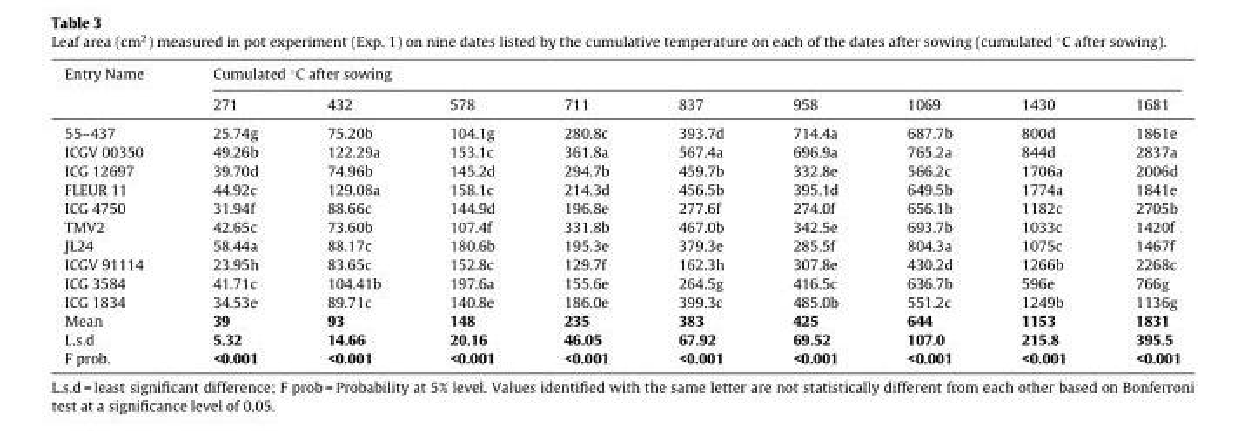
<table><thead><tr><td rowspan="2">Entry Name</td><td colspan="9">Cumulated ◦C after sowing</td></tr><tr><td>271</td><td>432</td><td>578</td><td>711</td><td>837</td><td>958</td><td>1069</td><td>1430</td><td>1681</td></tr></thead><tbody><tr><td>55–437</td><td>25.74g</td><td>75.20b</td><td>104.1g</td><td>280.8c</td><td>393.7d</td><td>714.4a</td><td>687.7b</td><td>800d</td><td>1861e</td></tr><tr><td>ICGV 00350</td><td>49.26b</td><td>122.29a</td><td>153.1c</td><td>361.8a</td><td>567.4a</td><td>696.9a</td><td>765.2a</td><td>844d</td><td>2837a</td></tr><tr><td>ICG 12697</td><td>39.70d</td><td>74.96b</td><td>145.2d</td><td>294.7b</td><td>459.7b</td><td>332.8e</td><td>566.2c</td><td>1706a</td><td>2006d</td></tr><tr><td>FLEUR 11</td><td>44.92c</td><td>129.08a</td><td>158.1c</td><td>214.3d</td><td>456.5b</td><td>395.1d</td><td>649.5b</td><td>1774a</td><td>1841e</td></tr><tr><td>ICG 4750</td><td>31.94f</td><td>88.66c</td><td>144.9d</td><td>196.8e</td><td>277.6f</td><td>274.0f</td><td>656.1b</td><td>1182c</td><td>2705b</td></tr><tr><td>TMV2</td><td>42.65c</td><td>73.60b</td><td>107.4f</td><td>331.8b</td><td>467.0b</td><td>342.5e</td><td>693.7b</td><td>1033c</td><td>1420f</td></tr><tr><td>JL24</td><td>58.44a</td><td>88.17c</td><td>180.6b</td><td>195.3e</td><td>379.3e</td><td>285.5f</td><td>804.3a</td><td>1075c</td><td>1467f</td></tr><tr><td>ICGV 91114</td><td>23.95h</td><td>83.65c</td><td>152.8c</td><td>129.7f</td><td>162.3h</td><td>307.8e</td><td>430.2d</td><td>1266b</td><td>2268c</td></tr><tr><td>ICG 3584</td><td>41.71c</td><td>104.41b</td><td>197.6a</td><td>155.6e</td><td>264.5g</td><td>416.5c</td><td>636.7b</td><td>596e</td><td>766g</td></tr><tr><td>ICG 1834</td><td>34.53e</td><td>89.71c</td><td>140.8e</td><td>186.0e</td><td>399.3c</td><td>485.0b</td><td>551.2c</td><td>1249b</td><td>1136g</td></tr><tr><td>Mean</td><td>39</td><td>93</td><td>148</td><td>235</td><td>383</td><td>425</td><td>644</td><td>1153</td><td>1831</td></tr><tr><td>L.s.d</td><td>5.32</td><td>14.66</td><td>20.16</td><td>46.05</td><td>67.92</td><td>69.52</td><td>107.0</td><td>215.8</td><td>395.5</td></tr><tr><td>F prob.</td><td>&lt;0.001</td><td>&lt;0.001</td><td>&lt;0.001</td><td>&lt;0.001</td><td>&lt;0.001</td><td>&lt;0.001</td><td>&lt;0.001</td><td>&lt;0.001</td><td>&lt;0.001</td></tr></tbody></table>